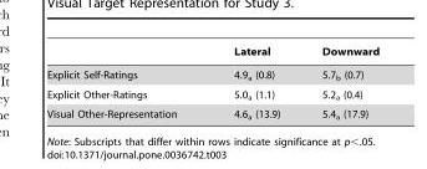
<table><thead><tr><td></td><td>Lateral</td><td>Downward</td></tr></thead><tbody><tr><td>Explicit Self-Ratings</td><td>4.9<sub>a</sub> (0.8)</td><td>5.7<sub>b</sub> (0.7)</td></tr><tr><td>Explicit Other-Ratings</td><td>5.0<sub>a</sub> (1.1)</td><td>5.2<sub>a</sub> (0.4)</td></tr><tr><td>Visual Other-Representation</td><td>4.6<sub>a</sub> (13.9)</td><td>5.4<sub>a</sub> (17.9)</td></tr></tbody></table>